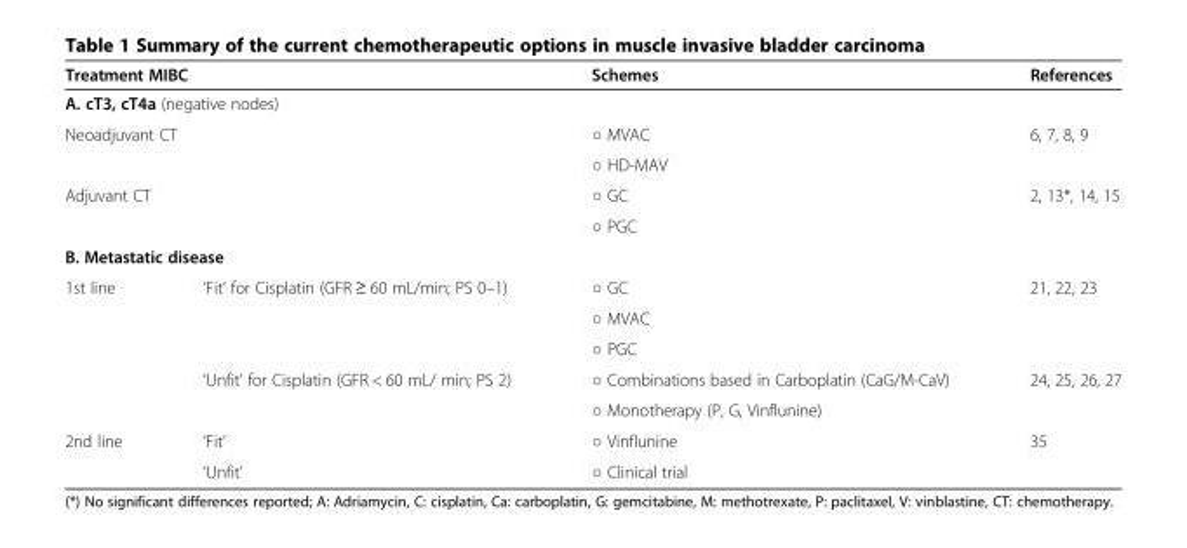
<table><thead><tr><td colspan="2">Treatment MIBC</td><td>Schemes</td><td>References</td></tr></thead><tbody><tr><td colspan="4">A. cT3, cT4a (negative nodes)</td></tr><tr><td rowspan="2" colspan="2">Neoadjuvant CT</td><td>○ MVAC</td><td rowspan="2">6, 7, 8, 9</td></tr><tr><td>○ HD-MAV</td></tr><tr><td rowspan="2" colspan="2">Adjuvant CT</td><td>○ GC</td><td rowspan="2">2, 13*, 14, 15</td></tr><tr><td>○ PGC</td></tr><tr><td colspan="4">B. Metastatic disease</td></tr><tr><td rowspan="5">1st line</td><td rowspan="3">‘Fit’ for Cisplatin (GFR ≥ 60 mL/min; PS 0–1)</td><td>○ GC</td><td rowspan="3">21, 22, 23</td></tr><tr><td>○ MVAC</td></tr><tr><td>○ PGC</td></tr><tr><td rowspan="2">‘Unfit’ for Cisplatin (GFR &lt; 60 mL/ min; PS 2)</td><td>○ Combinations based in Carboplatin (CaG/M-CaV)</td><td rowspan="2">24, 25, 26, 27</td></tr><tr><td>○ Monotherapy (P, G, Vinflunine)</td></tr><tr><td rowspan="2">2nd line</td><td>‘Fit’</td><td>○ Vinflunine</td><td rowspan="2">35</td></tr><tr><td>‘Unfit’</td><td>○ Clinical trial</td></tr></tbody></table>